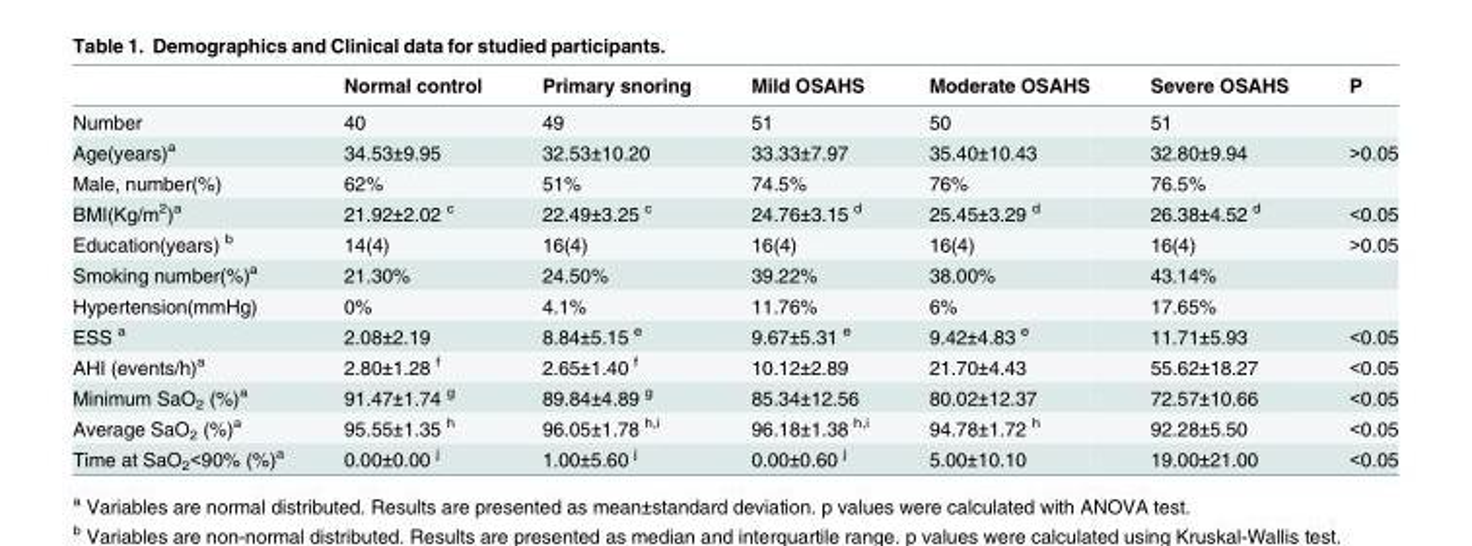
<table><thead><tr><td></td><td>Normal control</td><td>Primary snoring</td><td>Mild OSAHS</td><td>Moderate OSAHS</td><td>Severe OSAHS</td><td>P</td></tr></thead><tbody><tr><td>Number</td><td>40</td><td>49</td><td>51</td><td>50</td><td>51</td><td></td></tr><tr><td>Age(years)<sup>a</sup></td><td>34.53±9.95</td><td>32.53±10.20</td><td>33.33±7.97</td><td>35.40±10.43</td><td>32.80±9.94</td><td>&gt;0.05</td></tr><tr><td>Male, number(%)</td><td>62%</td><td>51%</td><td>74.5%</td><td>76%</td><td>76.5%</td><td></td></tr><tr><td>BMI(Kg/m<sup>2</sup>)<sup>a</sup></td><td>21.92±2.02 <sup>c</sup></td><td>22.49±3.25 <sup>c</sup></td><td>24.76±3.15 <sup>d</sup></td><td>25.45±3.29 <sup>d</sup></td><td>26.38±4.52 <sup>d</sup></td><td>&lt;0.05</td></tr><tr><td>Education(years) <sup>b</sup></td><td>14(4)</td><td>16(4)</td><td>16(4)</td><td>16(4)</td><td>16(4)</td><td>&gt;0.05</td></tr><tr><td>Smoking number(%)<sup>a</sup></td><td>21.30%</td><td>24.50%</td><td>39.22%</td><td>38.00%</td><td>43.14%</td><td></td></tr><tr><td>Hypertension(mmHg)</td><td>0%</td><td>4.1%</td><td>11.76%</td><td>6%</td><td>17.65%</td><td></td></tr><tr><td>ESS <sup>a</sup></td><td>2.08±2.19</td><td>8.84±5.15 <sup>e</sup></td><td>9.67±5.31 <sup>e</sup></td><td>9.42±4.83 <sup>e</sup></td><td>11.71±5.93</td><td>&lt;0.05</td></tr><tr><td>AHI (events/h)<sup>a</sup></td><td>2.80±1.28 <sup>f</sup></td><td>2.65±1.40 <sup>f</sup></td><td>10.12±2.89</td><td>21.70±4.43</td><td>55.62±18.27</td><td>&lt;0.05</td></tr><tr><td>Minimum SaO<sub>2</sub> (%)<sup>a</sup></td><td>91.47±1.74 <sup>g</sup></td><td>89.84±4.89 <sup>g</sup></td><td>85.34±12.56</td><td>80.02±12.37</td><td>72.57±10.66</td><td>&lt;0.05</td></tr><tr><td>Average SaO<sub>2</sub> (%)<sup>a</sup></td><td>95.55±1.35 <sup>h</sup></td><td>96.05±1.78 <sup>h,i</sup></td><td>96.18±1.38 <sup>h,i</sup></td><td>94.78±1.72 <sup>h</sup></td><td>92.28±5.50</td><td>&lt;0.05</td></tr><tr><td>Time at SaO<sub>2</sub>&lt;90% (%)<sup>a</sup></td><td>0.00±0.00 <sup>j</sup></td><td>1.00±5.60 <sup>j</sup></td><td>0.00±0.60 <sup>j</sup></td><td>5.00±10.10</td><td>19.00±21.00</td><td>&lt;0.05</td></tr></tbody></table>